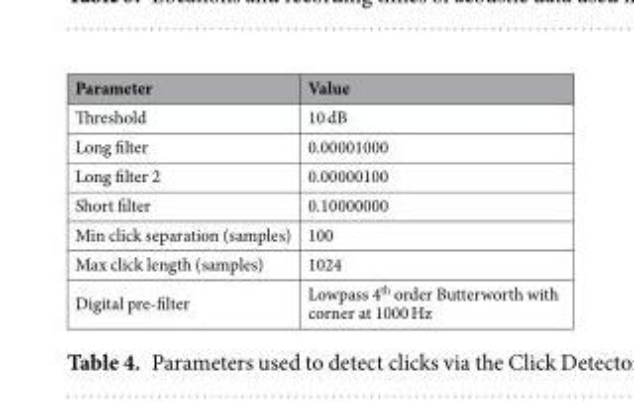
<table><thead><tr><td>Parameter</td><td>Value</td></tr></thead><tbody><tr><td>Threshold</td><td>10 dB</td></tr><tr><td>Long filter</td><td>0.00001000</td></tr><tr><td>Long filter 2</td><td>0.00000100</td></tr><tr><td>Short filter</td><td>0.10000000</td></tr><tr><td>Min click separation (samples)</td><td>100</td></tr><tr><td>Max click length (samples)</td><td>1024</td></tr><tr><td>Digital pre-filter</td><td>Lowpass 4<sup>th</sup> order Butterworth with corner at 1000 Hz</td></tr></tbody></table>